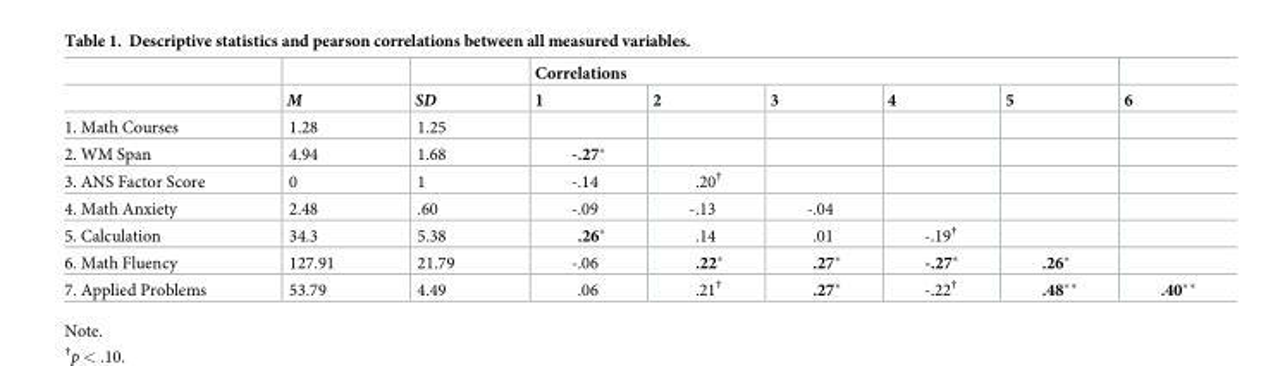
<table><thead><tr><td rowspan="2"></td><td rowspan="2">M</td><td rowspan="2">SD</td><td colspan="5">Correlations</td><td rowspan="2">6</td></tr><tr><td>1</td><td>2</td><td>3</td><td>4</td><td>5</td></tr></thead><tbody><tr><td>1. Math Courses</td><td>1.28</td><td>1.25</td><td></td><td></td><td></td><td></td><td></td><td></td></tr><tr><td>2. WM Span</td><td>4.94</td><td>1.68</td><td>-.27*</td><td></td><td></td><td></td><td></td><td></td></tr><tr><td>3. ANS Factor Score</td><td>0</td><td>1</td><td>-.14</td><td>.20<sup>†</sup></td><td></td><td></td><td></td><td></td></tr><tr><td>4. Math Anxiety</td><td>2.48</td><td>.60</td><td>-.09</td><td>-.13</td><td>-.04</td><td></td><td></td><td></td></tr><tr><td>5. Calculation</td><td>34.3</td><td>5.38</td><td>.26*</td><td>.14</td><td>.01</td><td>-.19<sup>†</sup></td><td></td><td></td></tr><tr><td>6. Math Fluency</td><td>127.91</td><td>21.79</td><td>-.06</td><td>.22*</td><td>.27*</td><td>-.27*</td><td>.26*</td><td></td></tr><tr><td>7. Applied Problems</td><td>53.79</td><td>4.49</td><td>.06</td><td>.21<sup>†</sup></td><td>.27*</td><td>-.22<sup>†</sup></td><td>.48**</td><td>.40**</td></tr></tbody></table>